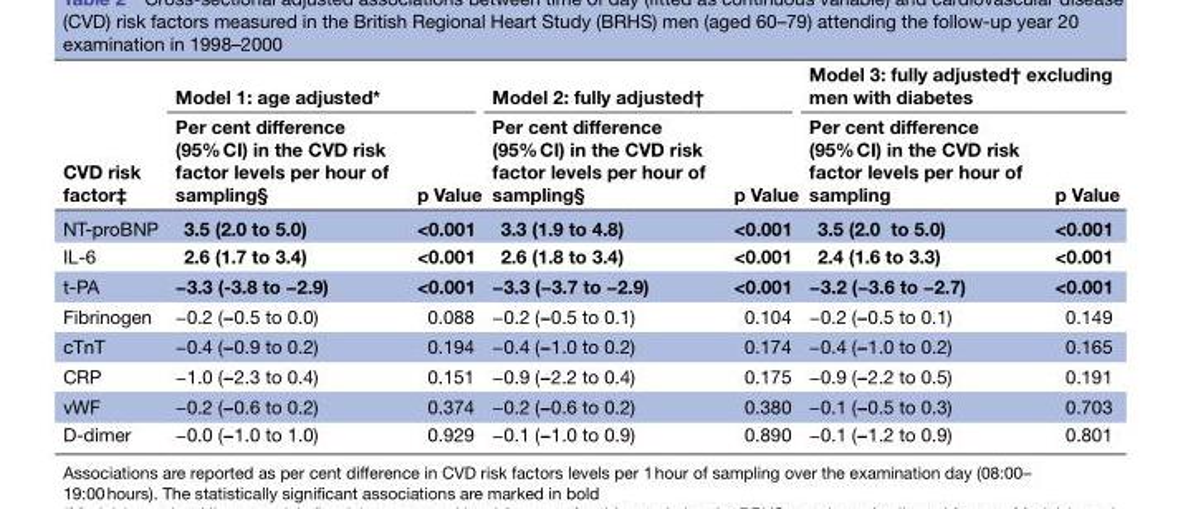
<table><thead><tr><td rowspan="2">CVD risk factor‡</td><td colspan="2">Model 1: age adjusted*</td><td colspan="2">Model 2: fully adjusted†</td><td colspan="2">Model 3: fully adjusted† excluding men with diabetes</td></tr><tr><td>Per cent difference (95% CI) in the CVD risk factor levels per hour of sampling§</td><td>p Value</td><td>Per cent difference (95% CI) in the CVD risk factor levels per hour of sampling§</td><td>p Value</td><td>Per cent difference (95% CI) in the CVD risk factor levels per hour of sampling</td><td>p Value</td></tr></thead><tbody><tr><td>NT-proBNP</td><td>3.5 (2.0 to 5.0)</td><td>&lt;0.001</td><td>3.3 (1.9 to 4.8)</td><td>&lt;0.001</td><td>3.5 (2.0 to 5.0)</td><td>&lt;0.001</td></tr><tr><td>IL-6</td><td>2.6 (1.7 to 3.4)</td><td>&lt;0.001</td><td>2.6 (1.8 to 3.4)</td><td>&lt;0.001</td><td>2.4 (1.6 to 3.3)</td><td>&lt;0.001</td></tr><tr><td>t-PA</td><td>−3.3 (-3.8 to −2.9)</td><td>&lt;0.001</td><td>−3.3 (−3.7 to −2.9)</td><td>&lt;0.001</td><td>−3.2 (−3.6 to −2.7)</td><td>&lt;0.001</td></tr><tr><td>Fibrinogen</td><td>−0.2 (−0.5 to 0.0)</td><td>0.088</td><td>−0.2 (−0.5 to 0.1)</td><td>0.104</td><td>−0.2 (−0.5 to 0.1)</td><td>0.149</td></tr><tr><td>cTnT</td><td>−0.4 (−0.9 to 0.2)</td><td>0.194</td><td>−0.4 (−1.0 to 0.2)</td><td>0.174</td><td>−0.4 (−1.0 to 0.2)</td><td>0.165</td></tr><tr><td>CRP</td><td>−1.0 (−2.3 to 0.4)</td><td>0.151</td><td>−0.9 (−2.2 to 0.4)</td><td>0.175</td><td>−0.9 (−2.2 to 0.5)</td><td>0.191</td></tr><tr><td>vWF</td><td>−0.2 (−0.6 to 0.2)</td><td>0.374</td><td>−0.2 (−0.6 to 0.2)</td><td>0.380</td><td>−0.1 (−0.5 to 0.3)</td><td>0.703</td></tr><tr><td>D-dimer</td><td>−0.0 (−1.0 to 1.0)</td><td>0.929</td><td>−0.1 (−1.0 to 0.9)</td><td>0.890</td><td>−0.1 (−1.2 to 0.9)</td><td>0.801</td></tr></tbody></table>